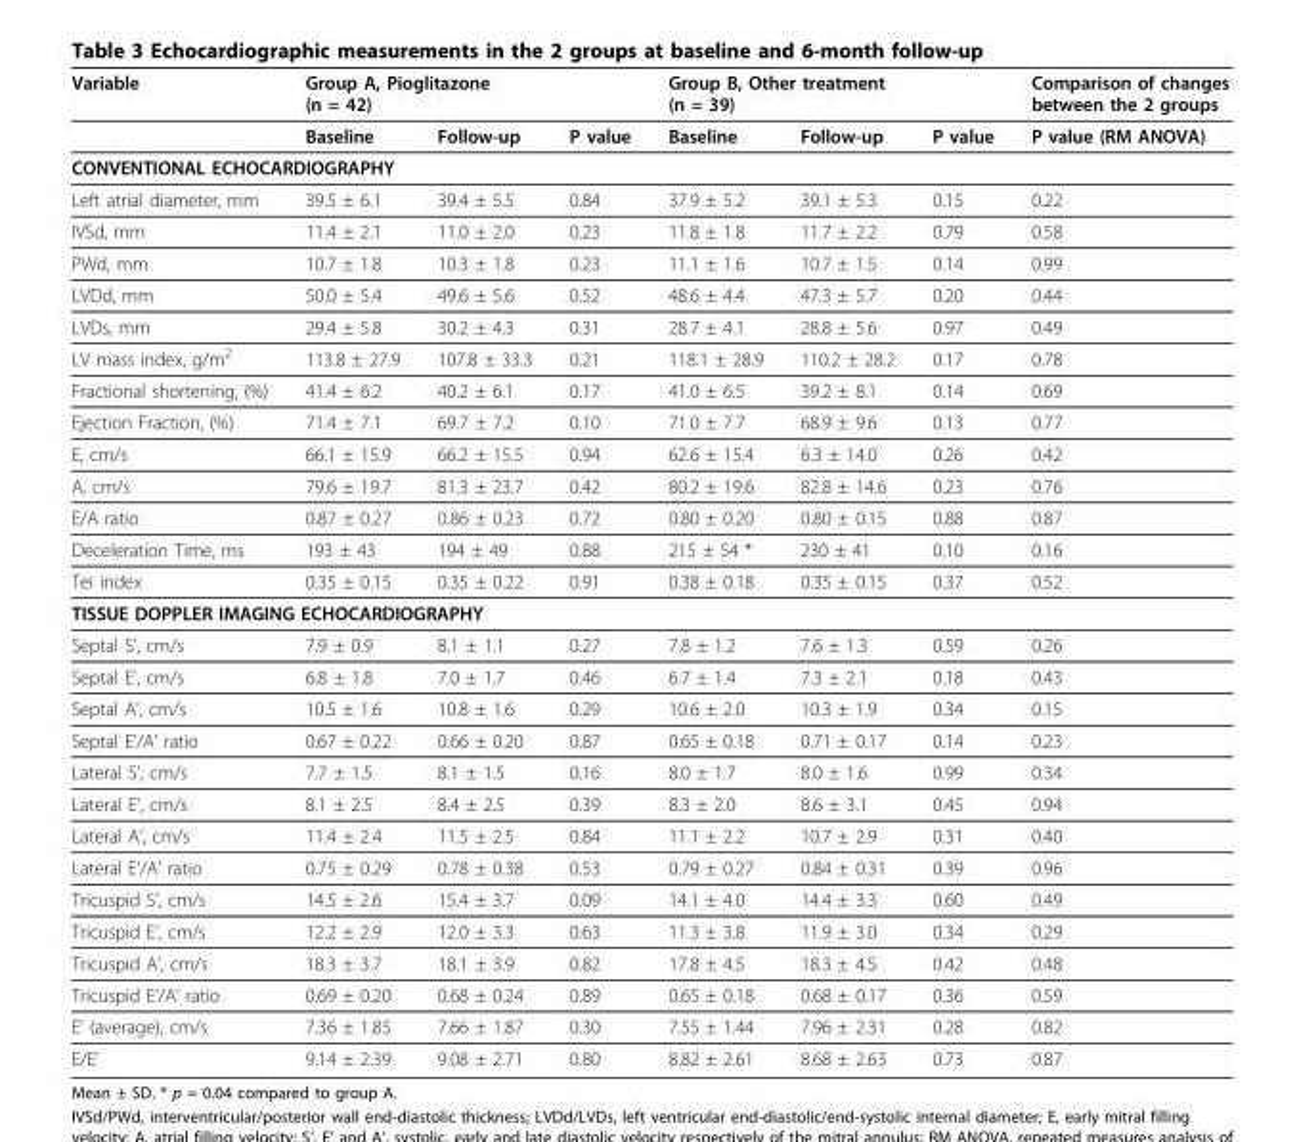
<table><thead><tr><td rowspan="2">Variable</td><td colspan="3">Group A, Pioglitazone (n = 42)</td><td colspan="3">Group B, Other treatment (n = 39)</td><td rowspan="2">Comparison of changes between the 2 groups P value (RM ANOVA)</td></tr><tr><td>Baseline</td><td>Follow-up</td><td>P value</td><td>Baseline</td><td>Follow-up</td><td>P value</td></tr></thead><tbody><tr><td colspan="8">CONVENTIONAL ECHOCARDIOGRAPHY</td></tr><tr><td>Left atrial diameter, mm</td><td>39.5 ± 6.1</td><td>39.4 ± 5.5</td><td>0.84</td><td>37.9 ± 5.2</td><td>39.1 ± 5.3</td><td>0.15</td><td>0.22</td></tr><tr><td>IVSd, mm</td><td>11.4 ± 2.1</td><td>11.0 ± 2.0</td><td>0.23</td><td>11.8 ± 1.8</td><td>11.7 ± 2.2</td><td>0.79</td><td>0.58</td></tr><tr><td>PWd, mm</td><td>10.7 ± 1.8</td><td>10.3 ± 1.8</td><td>0.23</td><td>11.1 ± 1.6</td><td>10.7 ± 1.5</td><td>0.14</td><td>0.99</td></tr><tr><td>LVDd, mm</td><td>50.0 ± 5.4</td><td>49.6 ± 5.6</td><td>0.52</td><td>48.6 ± 4.4</td><td>47.3 ± 5.7</td><td>0.20</td><td>0.44</td></tr><tr><td>LVDs, mm</td><td>29.4 ± 5.8</td><td>30.2 ± 4.3</td><td>0.31</td><td>28.7 ± 4.1</td><td>28.8 ± 5.6</td><td>0.97</td><td>0.49</td></tr><tr><td>LV mass index, g/m2</td><td>113.8 ± 27.9</td><td>107.8 ± 33.3</td><td>0.21</td><td>118.1 ± 28.9</td><td>110.2 ± 28.2</td><td>0.17</td><td>0.78</td></tr><tr><td>Fractional shortening, (%)</td><td>41.4 ± 6.2</td><td>40.2 ± 6.1</td><td>0.17</td><td>41.0 ± 6.5</td><td>39.2 ± 8.1</td><td>0.14</td><td>0.69</td></tr><tr><td>Ejection Fraction, (%)</td><td>71.4 ± 7.1</td><td>69.7 ± 7.2</td><td>0.10</td><td>71.0 ± 7.7</td><td>68.9 ± 9.6</td><td>0.13</td><td>0.77</td></tr><tr><td>E, cm/s</td><td>66.1 ± 15.9</td><td>66.2 ± 15.5</td><td>0.94</td><td>62.6 ± 15.4</td><td>6.3 ± 14.0</td><td>0.26</td><td>0.42</td></tr><tr><td>A, cm/s</td><td>79.6 ± 19.7</td><td>81.3 ± 23.7</td><td>0.42</td><td>80.2 ± 19.6</td><td>82.8 ± 14.6</td><td>0.23</td><td>0.76</td></tr><tr><td>E/A ratio</td><td>0.87 ± 0.27</td><td>0.86 ± 0.23</td><td>0.72</td><td>0.80 ± 0.20</td><td>0.80 ± 0.15</td><td>0.88</td><td>0.87</td></tr><tr><td>Deceleration Time, ms</td><td>193 ± 43</td><td>194 ± 49</td><td>0.88</td><td>215 ± 54 *</td><td>230 ± 41</td><td>0.10</td><td>0.16</td></tr><tr><td>Tei index</td><td>0.35 ± 0.15</td><td>0.35 ± 0.22</td><td>0.91</td><td>0.38 ± 0.18</td><td>0.35 ± 0.15</td><td>0.37</td><td>0.52</td></tr><tr><td colspan="8">TISSUE DOPPLER IMAGING ECHOCARDIOGRAPHY</td></tr><tr><td>Septal S’, cm/s</td><td>7.9 ± 0.9</td><td>8.1 ± 1.1</td><td>0.27</td><td>7.8 ± 1.2</td><td>7.6 ± 1.3</td><td>0.59</td><td>0.26</td></tr><tr><td>Septal E’, cm/s</td><td>6.8 ± 1.8</td><td>7.0 ± 1.7</td><td>0.46</td><td>6.7 ± 1.4</td><td>7.3 ± 2.1</td><td>0.18</td><td>0.43</td></tr><tr><td>Septal A’, cm/s</td><td>10.5 ± 1.6</td><td>10.8 ± 1.6</td><td>0.29</td><td>10.6 ± 2.0</td><td>10.3 ± 1.9</td><td>0.34</td><td>0.15</td></tr><tr><td>Septal E’/A’ ratio</td><td>0.67 ± 0.22</td><td>0.66 ± 0.20</td><td>0.87</td><td>0.65 ± 0.18</td><td>0.71 ± 0.17</td><td>0.14</td><td>0.23</td></tr><tr><td>Lateral S’, cm/s</td><td>7.7 ± 1.5</td><td>8.1 ± 1.5</td><td>0.16</td><td>8.0 ± 1.7</td><td>8.0 ± 1.6</td><td>0.99</td><td>0.34</td></tr><tr><td>Lateral E’, cm/s</td><td>8.1 ± 2.5</td><td>8.4 ± 2.5</td><td>0.39</td><td>8.3 ± 2.0</td><td>8.6 ± 3.1</td><td>0.45</td><td>0.94</td></tr><tr><td>Lateral A’, cm/s</td><td>11.4 ± 2.4</td><td>11.5 ± 2.5</td><td>0.84</td><td>11.1 ± 2.2</td><td>10.7 ± 2.9</td><td>0.31</td><td>0.40</td></tr><tr><td>Lateral E’/A’ ratio</td><td>0.75 ± 0.29</td><td>0.78 ± 0.38</td><td>0.53</td><td>0.79 ± 0.27</td><td>0.84 ± 0.31</td><td>0.39</td><td>0.96</td></tr><tr><td>Tricuspid S’, cm/s</td><td>14.5 ± 2.6</td><td>15.4 ± 3.7</td><td>0.09</td><td>14.1 ± 4.0</td><td>14.4 ± 3.3</td><td>0.60</td><td>0.49</td></tr><tr><td>Tricuspid E’, cm/s</td><td>12.2 ± 2.9</td><td>12.0 ± 3.3</td><td>0.63</td><td>11.3 ± 3.8</td><td>11.9 ± 3.0</td><td>0.34</td><td>0.29</td></tr><tr><td>Tricuspid A’, cm/s</td><td>18.3 ± 3.7</td><td>18.1 ± 3.9</td><td>0.82</td><td>17.8 ± 4.5</td><td>18.3 ± 4.5</td><td>0.42</td><td>0.48</td></tr><tr><td>Tricuspid E’/A’ ratio</td><td>0.69 ± 0.20</td><td>0.68 ± 0.24</td><td>0.89</td><td>0.65 ± 0.18</td><td>0.68 ± 0.17</td><td>0.36</td><td>0.59</td></tr><tr><td>E’ (average), cm/s</td><td>7.36 ± 1.85</td><td>7.66 ± 1.87</td><td>0.30</td><td>7.55 ± 1.44</td><td>7.96 ± 2.31</td><td>0.28</td><td>0.82</td></tr><tr><td>E/E’</td><td>9.14 ± 2.39</td><td>9.08 ± 2.71</td><td>0.80</td><td>8.82 ± 2.61</td><td>8.68 ± 2.63</td><td>0.73</td><td>0.87</td></tr></tbody></table>